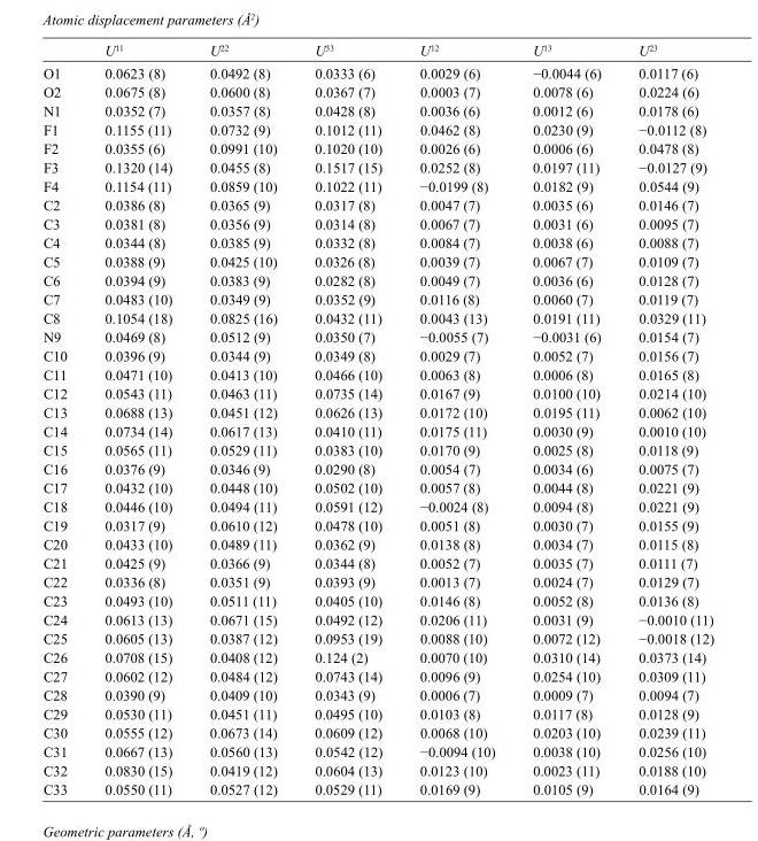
<table><thead><tr><td></td><td>U<sup>11</sup></td><td>U<sup>22</sup></td><td>U<sup>33</sup></td><td>U<sup>12</sup></td><td>U<sup>13</sup></td><td>U<sup>23</sup></td></tr></thead><tbody><tr><td>O1</td><td>0.0623 (8)</td><td>0.0492 (8)</td><td>0.0333 (6)</td><td>0.0029 (6)</td><td>−0.0044 (6)</td><td>0.0117 (6)</td></tr><tr><td>O2</td><td>0.0675 (8)</td><td>0.0600 (8)</td><td>0.0367 (7)</td><td>0.0003 (7)</td><td>0.0078 (6)</td><td>0.0224 (6)</td></tr><tr><td>N1</td><td>0.0352 (7)</td><td>0.0357 (8)</td><td>0.0428 (8)</td><td>0.0036 (6)</td><td>0.0012 (6)</td><td>0.0178 (6)</td></tr><tr><td>F1</td><td>0.1155 (11)</td><td>0.0732 (9)</td><td>0.1012 (11)</td><td>0.0462 (8)</td><td>0.0230 (9)</td><td>−0.0112 (8)</td></tr><tr><td>F2</td><td>0.0355 (6)</td><td>0.0991 (10)</td><td>0.1020 (10)</td><td>0.0026 (6)</td><td>0.0006 (6)</td><td>0.0478 (8)</td></tr><tr><td>F3</td><td>0.1320 (14)</td><td>0.0455 (8)</td><td>0.1517 (15)</td><td>0.0252 (8)</td><td>0.0197 (11)</td><td>−0.0127 (9)</td></tr><tr><td>F4</td><td>0.1154 (11)</td><td>0.0859 (10)</td><td>0.1022 (11)</td><td>−0.0199 (8)</td><td>0.0182 (9)</td><td>0.0544 (9)</td></tr><tr><td>C2</td><td>0.0386 (8)</td><td>0.0365 (9)</td><td>0.0317 (8)</td><td>0.0047 (7)</td><td>0.0035 (6)</td><td>0.0146 (7)</td></tr><tr><td>C3</td><td>0.0381 (8)</td><td>0.0356 (9)</td><td>0.0314 (8)</td><td>0.0067 (7)</td><td>0.0031 (6)</td><td>0.0095 (7)</td></tr><tr><td>C4</td><td>0.0344 (8)</td><td>0.0385 (9)</td><td>0.0332 (8)</td><td>0.0084 (7)</td><td>0.0038 (6)</td><td>0.0088 (7)</td></tr><tr><td>C5</td><td>0.0388 (9)</td><td>0.0425 (10)</td><td>0.0326 (8)</td><td>0.0039 (7)</td><td>0.0067 (7)</td><td>0.0109 (7)</td></tr><tr><td>C6</td><td>0.0394 (9)</td><td>0.0383 (9)</td><td>0.0282 (8)</td><td>0.0049 (7)</td><td>0.0036 (6)</td><td>0.0128 (7)</td></tr><tr><td>C7</td><td>0.0483 (10)</td><td>0.0349 (9)</td><td>0.0352 (9)</td><td>0.0116 (8)</td><td>0.0060 (7)</td><td>0.0119 (7)</td></tr><tr><td>C8</td><td>0.1054 (18)</td><td>0.0825 (16)</td><td>0.0432 (11)</td><td>0.0043 (13)</td><td>0.0191 (11)</td><td>0.0329 (11)</td></tr><tr><td>N9</td><td>0.0469 (8)</td><td>0.0512 (9)</td><td>0.0350 (7)</td><td>−0.0055 (7)</td><td>−0.0031 (6)</td><td>0.0154 (7)</td></tr><tr><td>C10</td><td>0.0396 (9)</td><td>0.0344 (9)</td><td>0.0349 (8)</td><td>0.0029 (7)</td><td>0.0052 (7)</td><td>0.0156 (7)</td></tr><tr><td>C11</td><td>0.0471 (10)</td><td>0.0413 (10)</td><td>0.0466 (10)</td><td>0.0063 (8)</td><td>0.0006 (8)</td><td>0.0165 (8)</td></tr><tr><td>C12</td><td>0.0543 (11)</td><td>0.0463 (11)</td><td>0.0735 (14)</td><td>0.0167 (9)</td><td>0.0100 (10)</td><td>0.0214 (10)</td></tr><tr><td>C13</td><td>0.0688 (13)</td><td>0.0451 (12)</td><td>0.0626 (13)</td><td>0.0172 (10)</td><td>0.0195 (11)</td><td>0.0062 (10)</td></tr><tr><td>C14</td><td>0.0734 (14)</td><td>0.0617 (13)</td><td>0.0410 (11)</td><td>0.0175 (11)</td><td>0.0030 (9)</td><td>0.0010 (10)</td></tr><tr><td>C15</td><td>0.0565 (11)</td><td>0.0529 (11)</td><td>0.0383 (10)</td><td>0.0170 (9)</td><td>0.0025 (8)</td><td>0.0118 (9)</td></tr><tr><td>C16</td><td>0.0376 (9)</td><td>0.0346 (9)</td><td>0.0290 (8)</td><td>0.0054 (7)</td><td>0.0034 (6)</td><td>0.0075 (7)</td></tr><tr><td>C17</td><td>0.0432 (10)</td><td>0.0448 (10)</td><td>0.0502 (10)</td><td>0.0057 (8)</td><td>0.0044 (8)</td><td>0.0221 (9)</td></tr><tr><td>C18</td><td>0.0446 (10)</td><td>0.0494 (11)</td><td>0.0591 (12)</td><td>−0.0024 (8)</td><td>0.0094 (8)</td><td>0.0221 (9)</td></tr><tr><td>C19</td><td>0.0317 (9)</td><td>0.0610 (12)</td><td>0.0478 (10)</td><td>0.0051 (8)</td><td>0.0030 (7)</td><td>0.0155 (9)</td></tr><tr><td>C20</td><td>0.0433 (10)</td><td>0.0489 (11)</td><td>0.0362 (9)</td><td>0.0138 (8)</td><td>0.0034 (7)</td><td>0.0115 (8)</td></tr><tr><td>C21</td><td>0.0425 (9)</td><td>0.0366 (9)</td><td>0.0344 (8)</td><td>0.0052 (7)</td><td>0.0035 (7)</td><td>0.0111 (7)</td></tr><tr><td>C22</td><td>0.0336 (8)</td><td>0.0351 (9)</td><td>0.0393 (9)</td><td>0.0013 (7)</td><td>0.0024 (7)</td><td>0.0129 (7)</td></tr><tr><td>C23</td><td>0.0493 (10)</td><td>0.0511 (11)</td><td>0.0405 (10)</td><td>0.0146 (8)</td><td>0.0052 (8)</td><td>0.0136 (8)</td></tr><tr><td>C24</td><td>0.0613 (13)</td><td>0.0671 (15)</td><td>0.0492 (12)</td><td>0.0206 (11)</td><td>0.0031 (9)</td><td>−0.0010 (11)</td></tr><tr><td>C25</td><td>0.0605 (13)</td><td>0.0387 (12)</td><td>0.0953 (19)</td><td>0.0088 (10)</td><td>0.0072 (12)</td><td>−0.0018 (12)</td></tr><tr><td>C26</td><td>0.0708 (15)</td><td>0.0408 (12)</td><td>0.124 (2)</td><td>0.0070 (10)</td><td>0.0310 (14)</td><td>0.0373 (14)</td></tr><tr><td>C27</td><td>0.0602 (12)</td><td>0.0484 (12)</td><td>0.0743 (14)</td><td>0.0096 (9)</td><td>0.0254 (10)</td><td>0.0309 (11)</td></tr><tr><td>C28</td><td>0.0390 (9)</td><td>0.0409 (10)</td><td>0.0343 (9)</td><td>0.0006 (7)</td><td>0.0009 (7)</td><td>0.0094 (7)</td></tr><tr><td>C29</td><td>0.0530 (11)</td><td>0.0451 (11)</td><td>0.0495 (10)</td><td>0.0103 (8)</td><td>0.0117 (8)</td><td>0.0128 (9)</td></tr><tr><td>C30</td><td>0.0555 (12)</td><td>0.0673 (14)</td><td>0.0609 (12)</td><td>0.0068 (10)</td><td>0.0203 (10)</td><td>0.0239 (11)</td></tr><tr><td>C31</td><td>0.0667 (13)</td><td>0.0560 (13)</td><td>0.0542 (12)</td><td>−0.0094 (10)</td><td>0.0038 (10)</td><td>0.0256 (10)</td></tr><tr><td>C32</td><td>0.0830 (15)</td><td>0.0419 (12)</td><td>0.0604 (13)</td><td>0.0123 (10)</td><td>0.0023 (11)</td><td>0.0188 (10)</td></tr><tr><td>C33</td><td>0.0550 (11)</td><td>0.0527 (12)</td><td>0.0529 (11)</td><td>0.0169 (9)</td><td>0.0105 (9)</td><td>0.0164 (9)</td></tr></tbody></table>